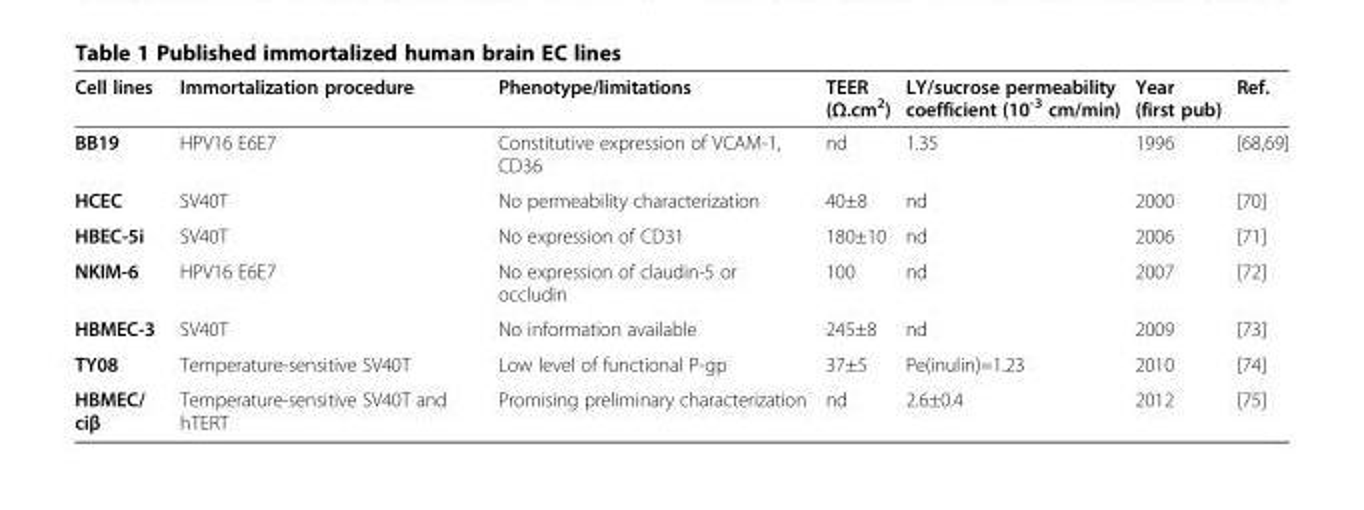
<table><thead><tr><td>Cell lines</td><td>Immortalization procedure</td><td>Phenotype/limitations</td><td>TEER (Ω.cm<sup>2</sup>)</td><td>LY/sucrose permeability coefficient (10<sup>-3</sup> cm/min)</td><td>Year (first pub)</td><td>Ref.</td></tr></thead><tbody><tr><td>BB19</td><td>HPV16 E6E7</td><td>Constitutive expression of VCAM-1, CD36</td><td>nd</td><td>1.35</td><td>1996</td><td>[68,69]</td></tr><tr><td>HCEC</td><td>SV40T</td><td>No permeability characterization</td><td>40±8</td><td>nd</td><td>2000</td><td>[70]</td></tr><tr><td>HBEC-5i</td><td>SV40T</td><td>No expression of CD31</td><td>180±10</td><td>nd</td><td>2006</td><td>[71]</td></tr><tr><td>NKIM-6</td><td>HPV16 E6E7</td><td>No expression of claudin-5 or occludin</td><td>100</td><td>nd</td><td>2007</td><td>[72]</td></tr><tr><td>HBMEC-3</td><td>SV40T</td><td>No information available</td><td>245±8</td><td>nd</td><td>2009</td><td>[73]</td></tr><tr><td>TY08</td><td>Temperature-sensitive SV40T</td><td>Low level of functional P-gp</td><td>37±5</td><td>Pe(inulin)=1.23</td><td>2010</td><td>[74]</td></tr><tr><td>HBMEC/ ciβ</td><td>Temperature-sensitive SV40T and hTERT</td><td>Promising preliminary characterization</td><td>nd</td><td>2.6±0.4</td><td>2012</td><td>[75]</td></tr></tbody></table>